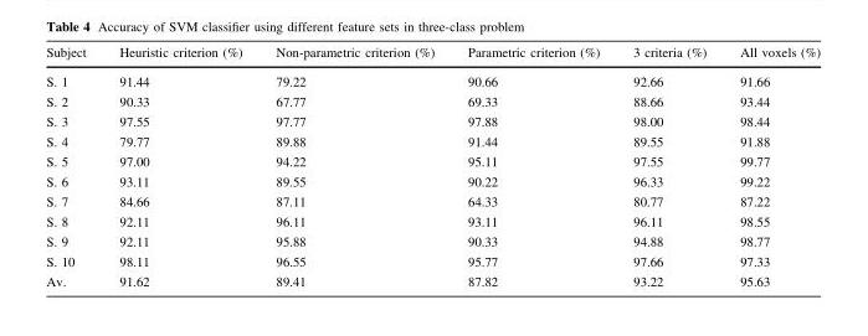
<table><thead><tr><td>Subject</td><td>Heuristic criterion (%)</td><td>Non-parametric criterion (%)</td><td>Parametric criterion (%)</td><td>3 criteria (%)</td><td>All voxels (%)</td></tr></thead><tbody><tr><td>S. 1</td><td>91.44</td><td>79.22</td><td>90.66</td><td>92.66</td><td>91.66</td></tr><tr><td>S. 2</td><td>90.33</td><td>67.77</td><td>69.33</td><td>88.66</td><td>93.44</td></tr><tr><td>S. 3</td><td>97.55</td><td>97.77</td><td>97.88</td><td>98.00</td><td>98.44</td></tr><tr><td>S. 4</td><td>79.77</td><td>89.88</td><td>91.44</td><td>89.55</td><td>91.88</td></tr><tr><td>S. 5</td><td>97.00</td><td>94.22</td><td>95.11</td><td>97.55</td><td>99.77</td></tr><tr><td>S. 6</td><td>93.11</td><td>89.55</td><td>90.22</td><td>96.33</td><td>99.22</td></tr><tr><td>S. 7</td><td>84.66</td><td>87.11</td><td>64.33</td><td>80.77</td><td>87.22</td></tr><tr><td>S. 8</td><td>92.11</td><td>96.11</td><td>93.11</td><td>96.11</td><td>98.55</td></tr><tr><td>S. 9</td><td>92.11</td><td>95.88</td><td>90.33</td><td>94.88</td><td>98.77</td></tr><tr><td>S. 10</td><td>98.11</td><td>96.55</td><td>95.77</td><td>97.66</td><td>97.33</td></tr><tr><td>Av.</td><td>91.62</td><td>89.41</td><td>87.82</td><td>93.22</td><td>95.63</td></tr></tbody></table>